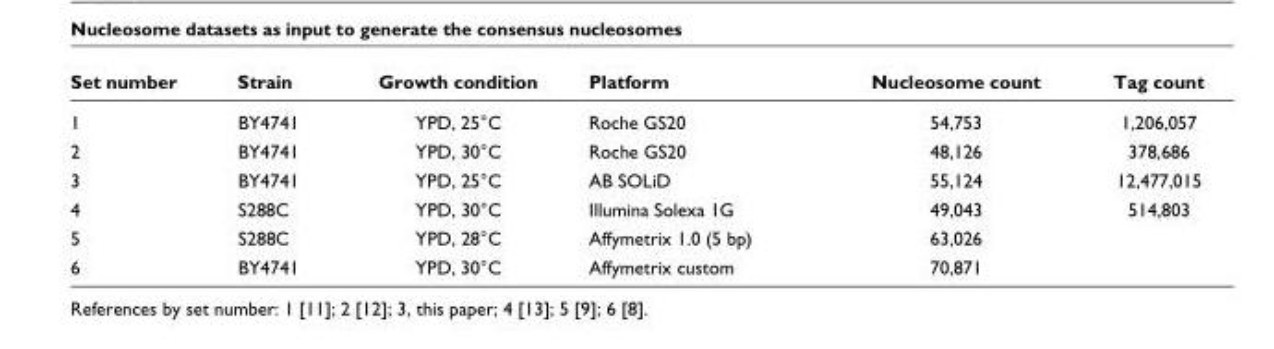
<table><thead><tr><td>Set number</td><td>Strain</td><td>Growth condition</td><td>Platform</td><td>Nucleosome count</td><td>Tag count</td></tr></thead><tbody><tr><td>1</td><td>BY4741</td><td>YPD, 25°C</td><td>Roche GS20</td><td>54,753</td><td>1,206,057</td></tr><tr><td>2</td><td>BY4741</td><td>YPD, 30°C</td><td>Roche GS20</td><td>48,126</td><td>378,686</td></tr><tr><td>3</td><td>BY4741</td><td>YPD, 25°C</td><td>AB SOLiD</td><td>55,124</td><td>12,477,015</td></tr><tr><td>4</td><td>S288C</td><td>YPD, 30°C</td><td>Illumina Solexa 1G</td><td>49,043</td><td>514,803</td></tr><tr><td>5</td><td>S288C</td><td>YPD, 28°C</td><td>Affymetrix 1.0 (5 bp)</td><td>63,026</td><td></td></tr><tr><td>6</td><td>BY4741</td><td>YPD, 30°C</td><td>Affymetrix custom</td><td>70,871</td><td></td></tr></tbody></table>